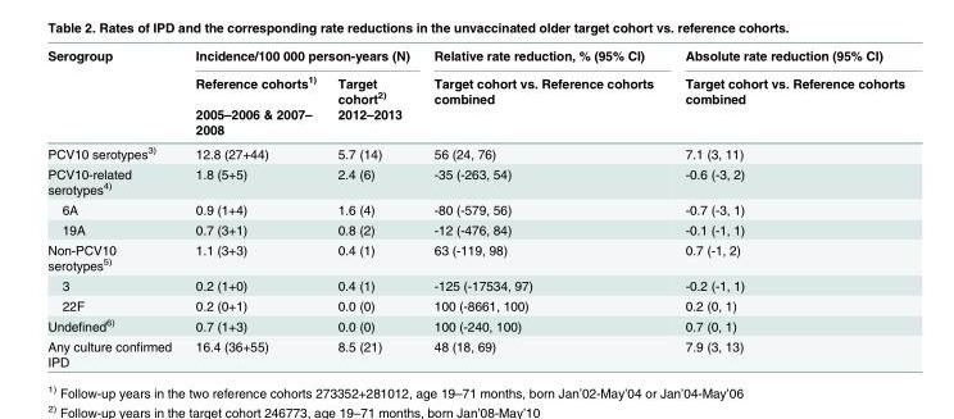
<table><thead><tr><td rowspan="3">Serogroup</td><td colspan="2">Incidence/100 000 person-years (N)</td><td rowspan="3">Relative rate reduction, % (95% CI) Target cohort vs. Reference cohorts combined</td><td rowspan="3">Absolute rate reduction (95% CI) Target cohort vs. Reference cohorts combined</td></tr><tr><td rowspan="2">Reference cohorts<sup>1)</sup> 2005–2006 &amp; 2007– 2008</td><td rowspan="2">Target cohort<sup>2)</sup> 2012–2013</td></tr><tr></tr></thead><tbody><tr><td>PCV10 serotypes<sup>3)</sup></td><td>12.8 (27+44)</td><td>5.7 (14)</td><td>56 (24, 76)</td><td>7.1 (3, 11)</td></tr><tr><td>PCV10-related serotypes<sup>4)</sup></td><td>1.8 (5+5)</td><td>2.4 (6)</td><td>-35 (-263, 54)</td><td>-0.6 (-3, 2)</td></tr><tr><td>6A</td><td>0.9 (1+4)</td><td>1.6 (4)</td><td>-80 (-579, 56)</td><td>-0.7 (-3, 1)</td></tr><tr><td>19A</td><td>0.7 (3+1)</td><td>0.8 (2)</td><td>-12 (-476, 84)</td><td>-0.1 (-1, 1)</td></tr><tr><td>Non-PCV10 serotypes<sup>5)</sup></td><td>1.1 (3+3)</td><td>0.4 (1)</td><td>63 (-119, 98)</td><td>0.7 (-1, 2)</td></tr><tr><td>3</td><td>0.2 (1+0)</td><td>0.4 (1)</td><td>-125 (-17534, 97)</td><td>-0.2 (-1, 1)</td></tr><tr><td>22F</td><td>0.2 (0+1)</td><td>0.0 (0)</td><td>100 (-8661, 100)</td><td>0.2 (0, 1)</td></tr><tr><td>Undefined<sup>6)</sup></td><td>0.7 (1+3)</td><td>0.0 (0)</td><td>100 (-240, 100)</td><td>0.7 (0, 1)</td></tr><tr><td>Any culture confirmed IPD</td><td>16.4 (36+55)</td><td>8.5 (21)</td><td>48 (18, 69)</td><td>7.9 (3, 13)</td></tr></tbody></table>